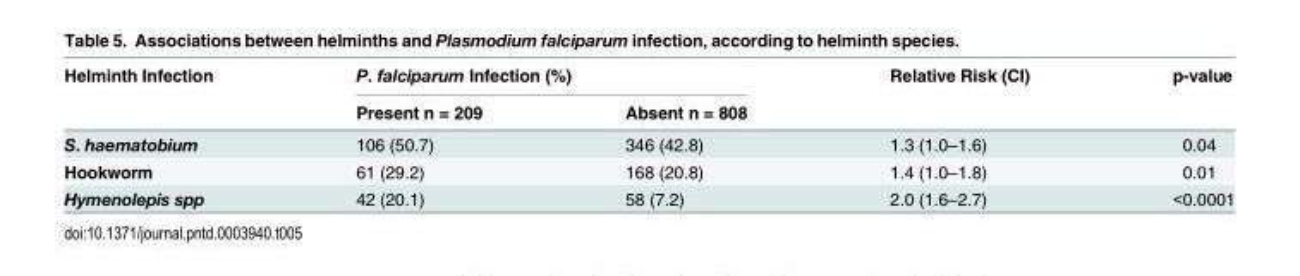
<table><thead><tr><td rowspan="2">Helminth Infection</td><td colspan="2">P. falciparum Infection (%)</td><td rowspan="2">Relative Risk (CI)</td><td rowspan="2">p-value</td></tr><tr><td>Present n = 209</td><td>Absent n = 808</td></tr></thead><tbody><tr><td>S. haematobium</td><td>106 (50.7)</td><td>346 (42.8)</td><td>1.3 (1.0–1.6)</td><td>0.04</td></tr><tr><td>Hookworm</td><td>61 (29.2)</td><td>168 (20.8)</td><td>1.4 (1.0–1.8)</td><td>0.01</td></tr><tr><td>Hymenolepis spp</td><td>42 (20.1)</td><td>58 (7.2)</td><td>2.0 (1.6–2.7)</td><td>&lt;0.0001</td></tr></tbody></table>